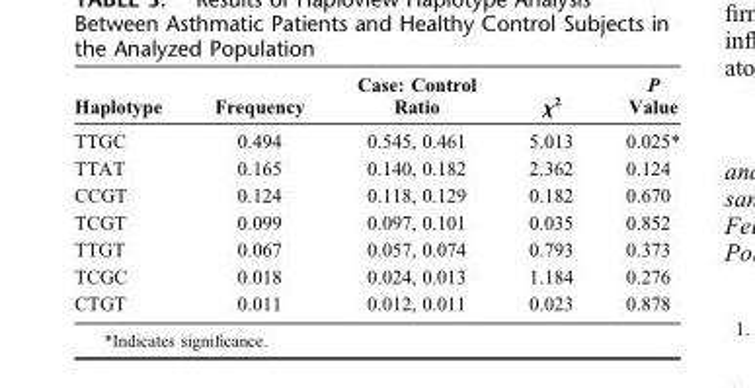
<table><thead><tr><td>Haplotype</td><td>Frequency</td><td>Case: Control Ratio</td><td>χ<sup>2</sup></td><td>P Value</td></tr></thead><tbody><tr><td>TTGC</td><td>0.494</td><td>0.545, 0.461</td><td>5.013</td><td>0.025*</td></tr><tr><td>TTAT</td><td>0.165</td><td>0.140, 0.182</td><td>2.362</td><td>0.124</td></tr><tr><td>CCGT</td><td>0.124</td><td>0.118, 0.129</td><td>0.182</td><td>0.670</td></tr><tr><td>TCGT</td><td>0.099</td><td>0.097, 0.101</td><td>0.035</td><td>0.852</td></tr><tr><td>TTGT</td><td>0.067</td><td>0.057, 0.074</td><td>0.793</td><td>0.373</td></tr><tr><td>TCGC</td><td>0.018</td><td>0.024, 0.013</td><td>1.184</td><td>0.276</td></tr><tr><td>CTGT</td><td>0.011</td><td>0.012, 0.011</td><td>0.023</td><td>0.878</td></tr></tbody></table>